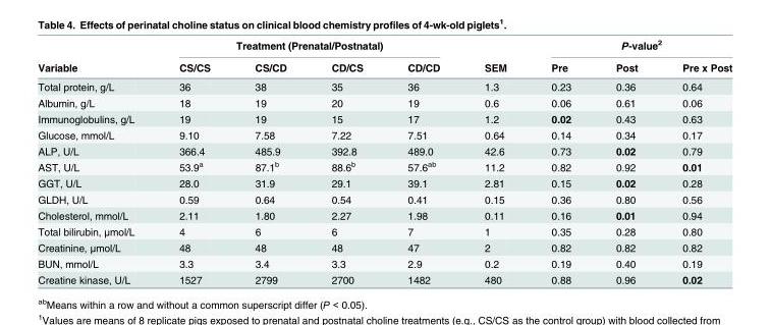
<table><thead><tr><td rowspan="2">Variable</td><td colspan="4">Treatment (Prenatal/Postnatal)</td><td rowspan="2">SEM</td><td colspan="3">P-value<sup>2</sup></td></tr><tr><td>CS/CS</td><td>CS/CD</td><td>CD/CS</td><td>CD/CD</td><td>Pre</td><td>Post</td><td>Pre x Post</td></tr></thead><tbody><tr><td>Total protein, g/L</td><td>36</td><td>38</td><td>35</td><td>36</td><td>1.3</td><td>0.23</td><td>0.36</td><td>0.64</td></tr><tr><td>Albumin, g/L</td><td>18</td><td>19</td><td>20</td><td>19</td><td>0.6</td><td>0.06</td><td>0.61</td><td>0.06</td></tr><tr><td>Immunoglobulins, g/L</td><td>19</td><td>19</td><td>15</td><td>17</td><td>1.2</td><td>0.02</td><td>0.43</td><td>0.63</td></tr><tr><td>Glucose, mmol/L</td><td>9.10</td><td>7.58</td><td>7.22</td><td>7.51</td><td>0.64</td><td>0.14</td><td>0.34</td><td>0.17</td></tr><tr><td>ALP, U/L</td><td>366.4</td><td>485.9</td><td>392.8</td><td>489.0</td><td>42.6</td><td>0.73</td><td>0.02</td><td>0.79</td></tr><tr><td>AST, U/L</td><td>53.9<sup>a</sup></td><td>87.1<sup>b</sup></td><td>88.6<sup>b</sup></td><td>57.6<sup>ab</sup></td><td>11.2</td><td>0.82</td><td>0.92</td><td>0.01</td></tr><tr><td>GGT, U/L</td><td>28.0</td><td>31.9</td><td>29.1</td><td>39.1</td><td>2.81</td><td>0.15</td><td>0.02</td><td>0.28</td></tr><tr><td>GLDH, U/L</td><td>0.59</td><td>0.64</td><td>0.54</td><td>0.41</td><td>0.15</td><td>0.36</td><td>0.80</td><td>0.56</td></tr><tr><td>Cholesterol, mmol/L</td><td>2.11</td><td>1.80</td><td>2.27</td><td>1.98</td><td>0.11</td><td>0.16</td><td>0.01</td><td>0.94</td></tr><tr><td>Total bilirubin, μmol/L</td><td>4</td><td>6</td><td>6</td><td>7</td><td>1</td><td>0.35</td><td>0.28</td><td>0.80</td></tr><tr><td>Creatinine, μmol/L</td><td>48</td><td>48</td><td>48</td><td>47</td><td>2</td><td>0.82</td><td>0.82</td><td>0.82</td></tr><tr><td>BUN, mmol/L</td><td>3.3</td><td>3.4</td><td>3.3</td><td>2.9</td><td>0.2</td><td>0.19</td><td>0.40</td><td>0.19</td></tr><tr><td>Creatine kinase, U/L</td><td>1527</td><td>2799</td><td>2700</td><td>1482</td><td>480</td><td>0.88</td><td>0.96</td><td>0.02</td></tr></tbody></table>